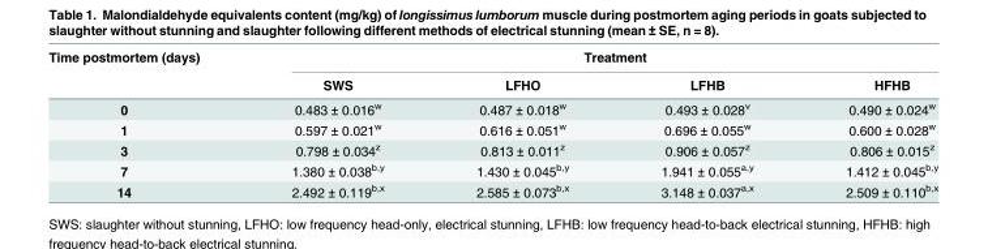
<table><thead><tr><td rowspan="2">Time postmortem (days)</td><td colspan="4">Treatment</td></tr><tr><td>SWS</td><td>LFHO</td><td>LFHB</td><td>HFHB</td></tr></thead><tbody><tr><td>0</td><td>0.483 ± 0.016<sup>w</sup></td><td>0.487 ± 0.018<sup>w</sup></td><td>0.493 ± 0.028<sup>v</sup></td><td>0.490 ± 0.024<sup>w</sup></td></tr><tr><td>1</td><td>0.597 ± 0.021<sup>w</sup></td><td>0.616 ± 0.051<sup>w</sup></td><td>0.696 ± 0.055<sup>w</sup></td><td>0.600 ± 0.028<sup>w</sup></td></tr><tr><td>3</td><td>0.798 ± 0.034<sup>z</sup></td><td>0.813 ± 0.011<sup>z</sup></td><td>0.906 ± 0.057<sup>z</sup></td><td>0.806 ± 0.015<sup>z</sup></td></tr><tr><td>7</td><td>1.380 ± 0.038<sup>b,y</sup></td><td>1.430 ± 0.045<sup>b,y</sup></td><td>1.941 ± 0.055<sup>a,y</sup></td><td>1.412 ± 0.045<sup>b,y</sup></td></tr><tr><td>14</td><td>2.492 ± 0.119<sup>b,x</sup></td><td>2.585 ± 0.073<sup>b,x</sup></td><td>3.148 ± 0.037<sup>a,x</sup></td><td>2.509 ± 0.110<sup>b,x</sup></td></tr></tbody></table>